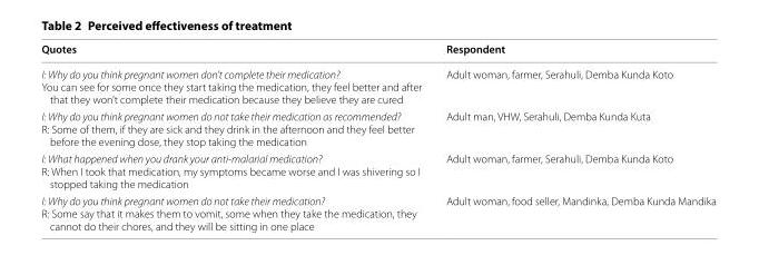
<table><thead><tr><td>Quotes</td><td>Respondent</td></tr></thead><tbody><tr><td>I: Why do you think pregnant women don’t complete their medication? You can see for some once they start taking the medication, they feel better and after that they won’t complete their medication because they believe they are cured</td><td>Adult woman, farmer, Serahuli, Demba Kunda Koto</td></tr><tr><td>I: Why do you think pregnant women do not take their medication as recommended? R: Some of them, if they are sick and they drink in the afternoon and they feel better before the evening dose, they stop taking the medication</td><td>Adult man, VHW, Serahuli, Demba Kunda Kuta</td></tr><tr><td>I: What happened when you drank your anti-malarial medication? R: When I took that medication, my symptoms became worse and I was shivering so I stopped taking the medication</td><td>Adult woman, farmer, Serahuli, Demba Kunda Koto</td></tr><tr><td>I: Why do you think pregnant women do not take their medication? R: Some say that it makes them to vomit, some when they take the medication, they cannot do their chores, and they will be sitting in one place</td><td>Adult woman, food seller, Mandinka, Demba Kunda Mandika</td></tr></tbody></table>